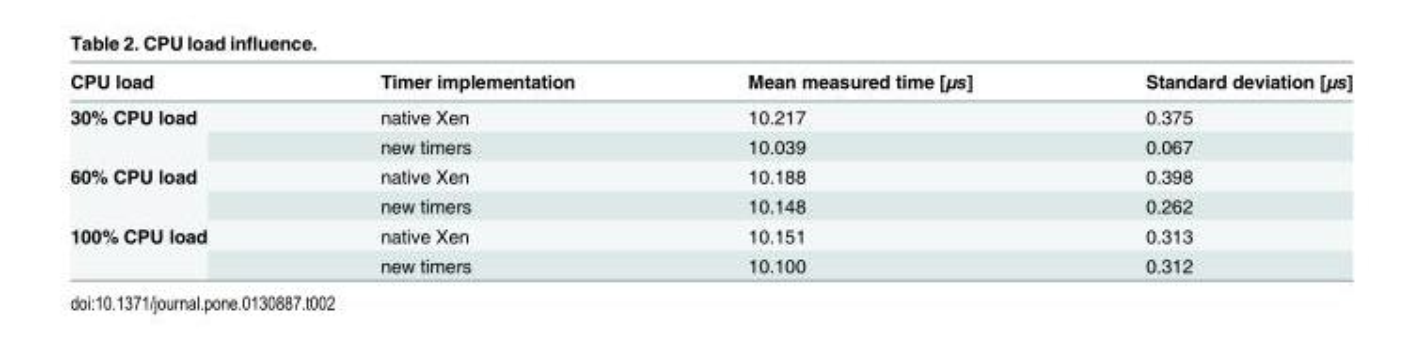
<table><thead><tr><td>CPU load</td><td>Timer implementation</td><td>Mean measured time [μs]</td><td>Standard deviation [μs]</td></tr></thead><tbody><tr><td rowspan="2">30% CPU load</td><td>native Xen</td><td>10.217</td><td>0.375</td></tr><tr><td>new timers</td><td>10.039</td><td>0.067</td></tr><tr><td rowspan="2">60% CPU load</td><td>native Xen</td><td>10.188</td><td>0.398</td></tr><tr><td>new timers</td><td>10.148</td><td>0.262</td></tr><tr><td rowspan="2">100% CPU load</td><td>native Xen</td><td>10.151</td><td>0.313</td></tr><tr><td>new timers</td><td>10.100</td><td>0.312</td></tr></tbody></table>